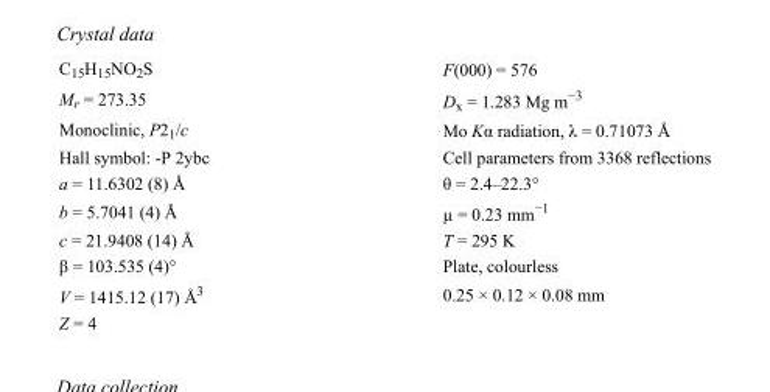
<table><tbody><tr><td>C<sub>15</sub>H<sub>15</sub>NO<sub>2</sub>S</td><td>F(000) = 576</td></tr><tr><td>M<sub>r</sub> = 273.35</td><td>D<sub>x</sub> = 1.283 Mg m<sup>−3</sup></td></tr><tr><td>Monoclinic, P2<sub>1</sub>/c</td><td>Mo Kα radiation, λ = 0.71073 Å</td></tr><tr><td>Hall symbol: -P 2ybc</td><td>Cell parameters from 3368 reflections</td></tr><tr><td>a = 11.6302 (8) Å</td><td>θ = 2.4–22.3°</td></tr><tr><td>b = 5.7041 (4) Å</td><td>µ = 0.23 mm<sup>−1</sup></td></tr><tr><td>c = 21.9408 (14) Å</td><td>T = 295 K</td></tr><tr><td>β = 103.535 (4)°</td><td>Plate, colourless</td></tr><tr><td>V = 1415.12 (17) Å<sup>3</sup></td><td>0.25 × 0.12 × 0.08 mm</td></tr><tr><td>Z = 4</td><td></td></tr></tbody></table>